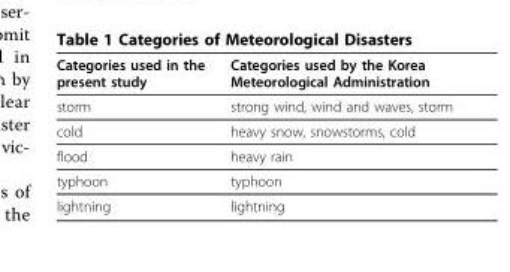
<table><thead><tr><td>Categories used in the present study</td><td>Categories used by the Korea Meteorological Administration</td></tr></thead><tbody><tr><td>storm</td><td>strong wind, wind and waves, storm</td></tr><tr><td>cold</td><td>heavy snow, snowstorms, cold</td></tr><tr><td>flood</td><td>heavy rain</td></tr><tr><td>typhoon</td><td>typhoon</td></tr><tr><td>lightning</td><td>lightning</td></tr></tbody></table>